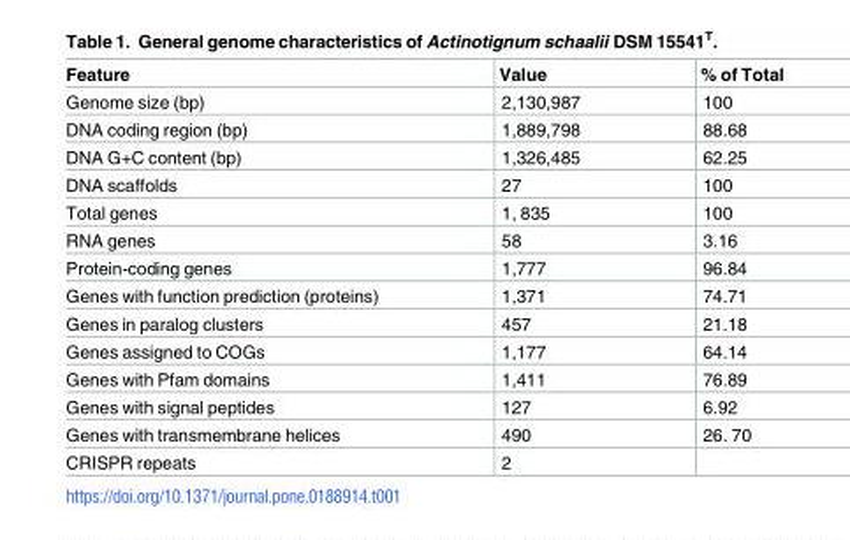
<table><thead><tr><td>Feature</td><td>Value</td><td>% of Total</td></tr></thead><tbody><tr><td>Genome size (bp)</td><td>2,130,987</td><td>100</td></tr><tr><td>DNA coding region (bp)</td><td>1,889,798</td><td>88.68</td></tr><tr><td>DNA G+C content (bp)</td><td>1,326,485</td><td>62.25</td></tr><tr><td>DNA scaffolds</td><td>27</td><td>100</td></tr><tr><td>Total genes</td><td>1, 835</td><td>100</td></tr><tr><td>RNA genes</td><td>58</td><td>3.16</td></tr><tr><td>Protein-coding genes</td><td>1,777</td><td>96.84</td></tr><tr><td>Genes with function prediction (proteins)</td><td>1,371</td><td>74.71</td></tr><tr><td>Genes in paralog clusters</td><td>457</td><td>21.18</td></tr><tr><td>Genes assigned to COGs</td><td>1,177</td><td>64.14</td></tr><tr><td>Genes with Pfam domains</td><td>1,411</td><td>76.89</td></tr><tr><td>Genes with signal peptides</td><td>127</td><td>6.92</td></tr><tr><td>Genes with transmembrane helices</td><td>490</td><td>26. 70</td></tr><tr><td>CRISPR repeats</td><td>2</td><td></td></tr></tbody></table>